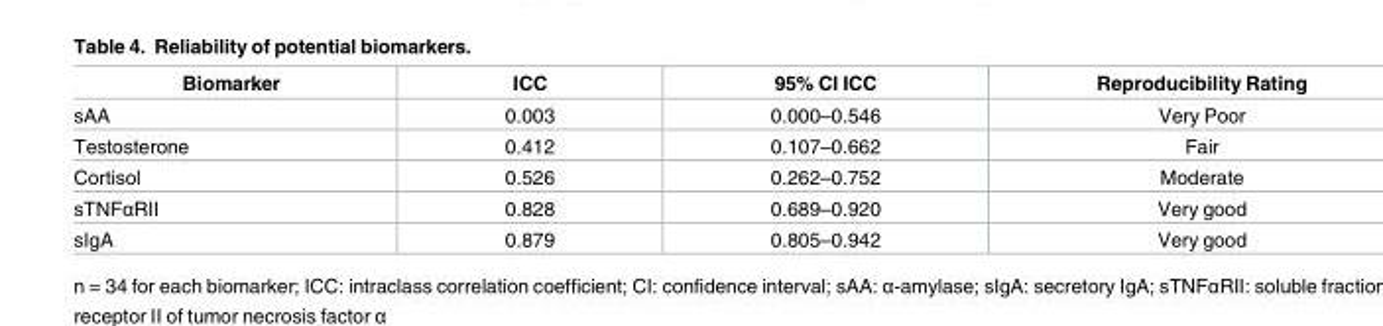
<table><thead><tr><td>Biomarker</td><td>ICC</td><td>95% CI ICC</td><td>Reproducibility Rating</td></tr></thead><tbody><tr><td>sAA</td><td>0.003</td><td>0.000–0.546</td><td>Very Poor</td></tr><tr><td>Testosterone</td><td>0.412</td><td>0.107–0.662</td><td>Fair</td></tr><tr><td>Cortisol</td><td>0.526</td><td>0.262–0.752</td><td>Moderate</td></tr><tr><td>sTNFαRII</td><td>0.828</td><td>0.689–0.920</td><td>Very good</td></tr><tr><td>sIgA</td><td>0.879</td><td>0.805–0.942</td><td>Very good</td></tr></tbody></table>